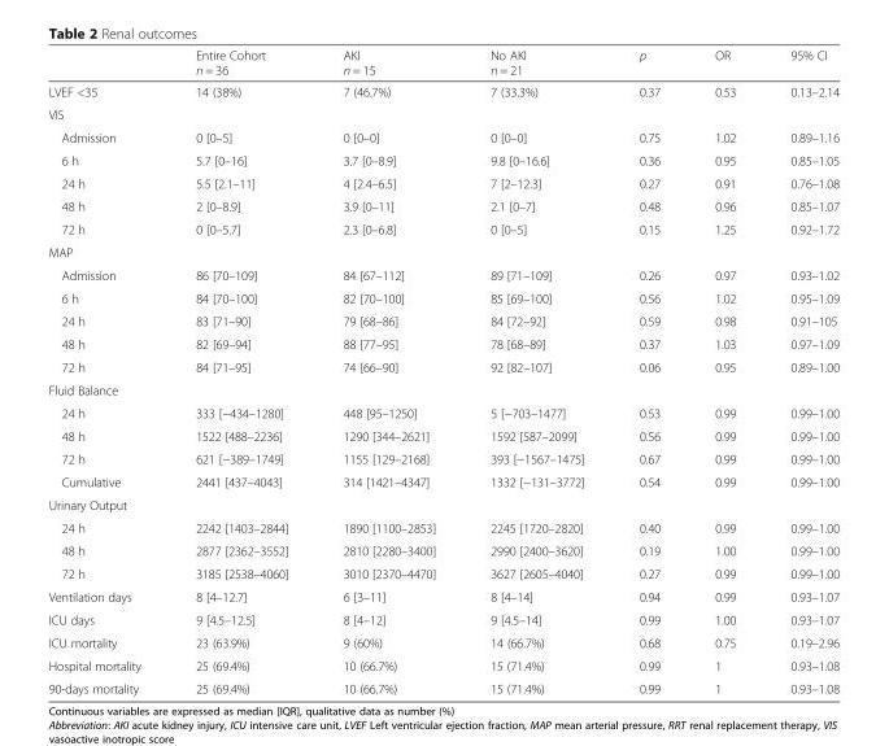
<table><thead><tr><td></td><td>Entire Cohort n = 36</td><td>AKI n = 15</td><td>No AKI n = 21</td><td>p</td><td>OR</td><td>95% CI</td></tr></thead><tbody><tr><td>LVEF &lt;35</td><td>14 (38%)</td><td>7 (46.7%)</td><td>7 (33.3%)</td><td>0.37</td><td>0.53</td><td>0.13–2.14</td></tr><tr><td colspan="7">VIS</td></tr><tr><td>Admission</td><td>0 [0–5]</td><td>0 [0–0]</td><td>0 [0–0]</td><td>0.75</td><td>1.02</td><td>0.89–1.16</td></tr><tr><td>6 h</td><td>5.7 [0–16]</td><td>3.7 [0–8.9]</td><td>9.8 [0–16.6]</td><td>0.36</td><td>0.95</td><td>0.85–1.05</td></tr><tr><td>24 h</td><td>5.5 [2.1–11]</td><td>4 [2.4–6.5]</td><td>7 [2–12.3]</td><td>0.27</td><td>0.91</td><td>0.76–1.08</td></tr><tr><td>48 h</td><td>2 [0–8.9]</td><td>3.9 [0–11]</td><td>2.1 [0–7]</td><td>0.48</td><td>0.96</td><td>0.85–1.07</td></tr><tr><td>72 h</td><td>0 [0–5.7]</td><td>2.3 [0–6.8]</td><td>0 [0–5]</td><td>0.15</td><td>1.25</td><td>0.92–1.72</td></tr><tr><td colspan="7">MAP</td></tr><tr><td>Admission</td><td>86 [70–109]</td><td>84 [67–112]</td><td>89 [71–109]</td><td>0.26</td><td>0.97</td><td>0.93–1.02</td></tr><tr><td>6 h</td><td>84 [70–100]</td><td>82 [70–100]</td><td>85 [69–100]</td><td>0.56</td><td>1.02</td><td>0.95–1.09</td></tr><tr><td>24 h</td><td>83 [71–90]</td><td>79 [68–86]</td><td>84 [72–92]</td><td>0.59</td><td>0.98</td><td>0.91–105</td></tr><tr><td>48 h</td><td>82 [69–94]</td><td>88 [77–95]</td><td>78 [68–89]</td><td>0.37</td><td>1.03</td><td>0.97–1.09</td></tr><tr><td>72 h</td><td>84 [71–95]</td><td>74 [66–90]</td><td>92 [82–107]</td><td>0.06</td><td>0.95</td><td>0.89–1.00</td></tr><tr><td colspan="7">Fluid Balance</td></tr><tr><td>24 h</td><td>333 [−434–1280]</td><td>448 [95–1250]</td><td>5 [−703–1477]</td><td>0.53</td><td>0.99</td><td>0.99–1.00</td></tr><tr><td>48 h</td><td>1522 [488–2236]</td><td>1290 [344–2621]</td><td>1592 [587–2099]</td><td>0.56</td><td>0.99</td><td>0.99–1.00</td></tr><tr><td>72 h</td><td>621 [−389–1749]</td><td>1155 [129–2168]</td><td>393 [−1567–1475]</td><td>0.67</td><td>0.99</td><td>0.99–1.00</td></tr><tr><td>Cumulative</td><td>2441 [437–4043]</td><td>314 [1421–4347]</td><td>1332 [−131–3772]</td><td>0.54</td><td>0.99</td><td>0.99–1.00</td></tr><tr><td colspan="7">Urinary Output</td></tr><tr><td>24 h</td><td>2242 [1403–2844]</td><td>1890 [1100–2853]</td><td>2245 [1720–2820]</td><td>0.40</td><td>0.99</td><td>0.99–1.00</td></tr><tr><td>48 h</td><td>2877 [2362–3552]</td><td>2810 [2280–3400]</td><td>2990 [2400–3620]</td><td>0.19</td><td>1.00</td><td>0.99–1.00</td></tr><tr><td>72 h</td><td>3185 [2538–4060]</td><td>3010 [2370–4470]</td><td>3627 [2605–4040]</td><td>0.27</td><td>0.99</td><td>0.99–1.00</td></tr><tr><td>Ventilation days</td><td>8 [4–12.7]</td><td>6 [3–11]</td><td>8 [4–14]</td><td>0.94</td><td>0.99</td><td>0.93–1.07</td></tr><tr><td>ICU days</td><td>9 [4.5–12.5]</td><td>8 [4–12]</td><td>9 [4.5–14]</td><td>0.99</td><td>1.00</td><td>0.93–1.07</td></tr><tr><td>ICU mortality</td><td>23 (63.9%)</td><td>9 (60%)</td><td>14 (66.7%)</td><td>0.68</td><td>0.75</td><td>0.19–2.96</td></tr><tr><td>Hospital mortality</td><td>25 (69.4%)</td><td>10 (66.7%)</td><td>15 (71.4%)</td><td>0.99</td><td>1</td><td>0.93–1.08</td></tr><tr><td>90-days mortality</td><td>25 (69.4%)</td><td>10 (66.7%)</td><td>15 (71.4%)</td><td>0.99</td><td>1</td><td>0.93–1.08</td></tr></tbody></table>